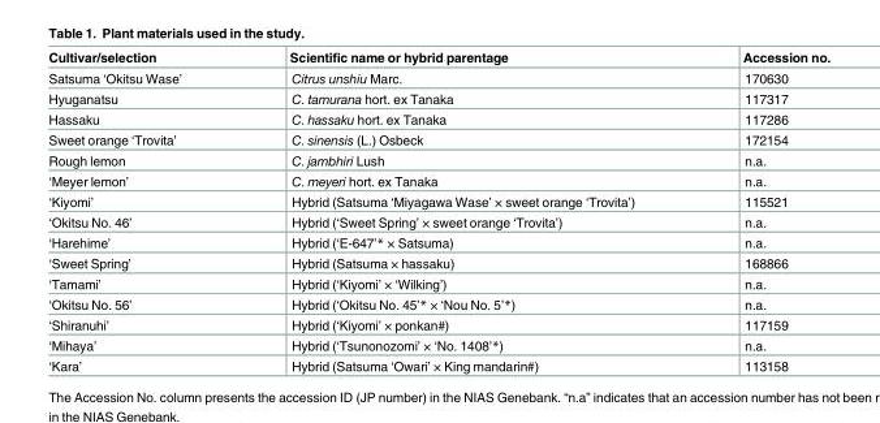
<table><thead><tr><td>Cultivar/selection</td><td>Scientific name or hybrid parentage</td><td>Accession no.</td></tr></thead><tbody><tr><td>Satsuma ‘Okitsu Wase’</td><td>Citrus unshiu Marc.</td><td>170630</td></tr><tr><td>Hyuganatsu</td><td>C. tamurana hort. ex Tanaka</td><td>117317</td></tr><tr><td>Hassaku</td><td>C. hassaku hort. ex Tanaka</td><td>117286</td></tr><tr><td>Sweet orange ‘Trovita’</td><td>C. sinensis (L.) Osbeck</td><td>172154</td></tr><tr><td>Rough lemon</td><td>C. jambhiri Lush</td><td>n.a.</td></tr><tr><td>‘Meyer lemon’</td><td>C. meyeri hort. ex Tanaka</td><td>n.a.</td></tr><tr><td>‘Kiyomi’</td><td>Hybrid (Satsuma ‘Miyagawa Wase’ × sweet orange ‘Trovita’)</td><td>115521</td></tr><tr><td>‘Okitsu No. 46’</td><td>Hybrid (‘Sweet Spring’ × sweet orange ‘Trovita’)</td><td>n.a.</td></tr><tr><td>‘Harehime’</td><td>Hybrid (‘E-647’* × Satsuma)</td><td>n.a.</td></tr><tr><td>‘Sweet Spring’</td><td>Hybrid (Satsuma × hassaku)</td><td>168866</td></tr><tr><td>‘Tamami’</td><td>Hybrid (‘Kiyomi’ × ‘Wilking’)</td><td>n.a.</td></tr><tr><td>‘Okitsu No. 56’</td><td>Hybrid (‘Okitsu No. 45’* × ‘Nou No. 5’*)</td><td>n.a.</td></tr><tr><td>‘Shiranuhi’</td><td>Hybrid (‘Kiyomi’ × ponkan#)</td><td>117159</td></tr><tr><td>‘Mihaya’</td><td>Hybrid (‘Tsunonozomi’ × ‘No. 1408’*)</td><td>n.a.</td></tr><tr><td>‘Kara’</td><td>Hybrid (Satsuma ‘Owari’ × King mandarin#)</td><td>113158</td></tr></tbody></table>